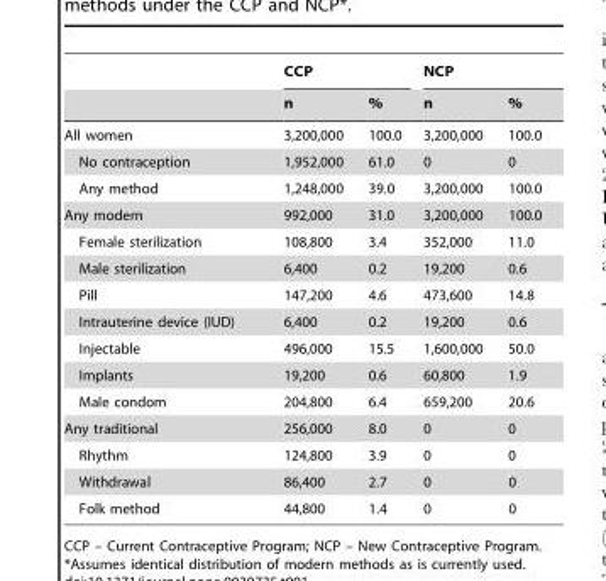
<table><thead><tr><td rowspan="2"></td><td colspan="2">CCP</td><td colspan="2">NCP</td></tr><tr><td>n</td><td>%</td><td>n</td><td>%</td></tr></thead><tbody><tr><td>All women</td><td>3,200,000</td><td>100.0</td><td>3,200,000</td><td>100.0</td></tr><tr><td>No contraception</td><td>1,952,000</td><td>61.0</td><td>0</td><td>0</td></tr><tr><td>Any method</td><td>1,248,000</td><td>39.0</td><td>3,200,000</td><td>100.0</td></tr><tr><td>Any modern</td><td>992,000</td><td>31.0</td><td>3,200,000</td><td>100.0</td></tr><tr><td>Female sterilization</td><td>108,800</td><td>3.4</td><td>352,000</td><td>11.0</td></tr><tr><td>Male sterilization</td><td>6,400</td><td>0.2</td><td>19,200</td><td>0.6</td></tr><tr><td>Pill</td><td>147,200</td><td>4.6</td><td>473,600</td><td>14.8</td></tr><tr><td>Intrauterine device (IUD)</td><td>6,400</td><td>0.2</td><td>19,200</td><td>0.6</td></tr><tr><td>Injectable</td><td>496,000</td><td>15.5</td><td>1,600,000</td><td>50.0</td></tr><tr><td>Implants</td><td>19,200</td><td>0.6</td><td>60,800</td><td>1.9</td></tr><tr><td>Male condom</td><td>204,800</td><td>6.4</td><td>659,200</td><td>20.6</td></tr><tr><td>Any traditional</td><td>256,000</td><td>8.0</td><td>0</td><td>0</td></tr><tr><td>Rhythm</td><td>124,800</td><td>3.9</td><td>0</td><td>0</td></tr><tr><td>Withdrawal</td><td>86,400</td><td>2.7</td><td>0</td><td>0</td></tr><tr><td>Folk method</td><td>44,800</td><td>1.4</td><td>0</td><td>0</td></tr></tbody></table>